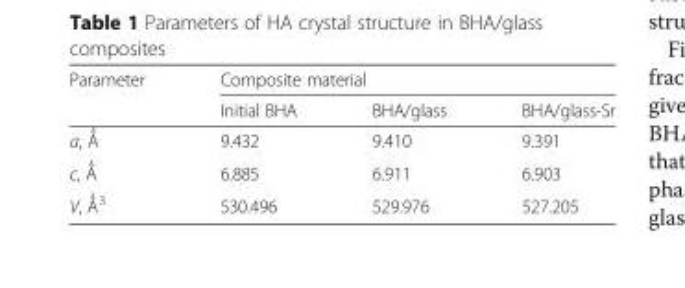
<table><thead><tr><td rowspan="2">Parameter</td><td colspan="3">Composite material</td></tr><tr><td>Initial BHA</td><td>BHA/glass</td><td>BHA/glass-Sr</td></tr></thead><tbody><tr><td>а, Ǻ</td><td>9.432</td><td>9.410</td><td>9.391</td></tr><tr><td>с, Ǻ</td><td>6.885</td><td>6.911</td><td>6.903</td></tr><tr><td>V, Ǻ<sup>3</sup></td><td>530.496</td><td>529.976</td><td>527.205</td></tr></tbody></table>